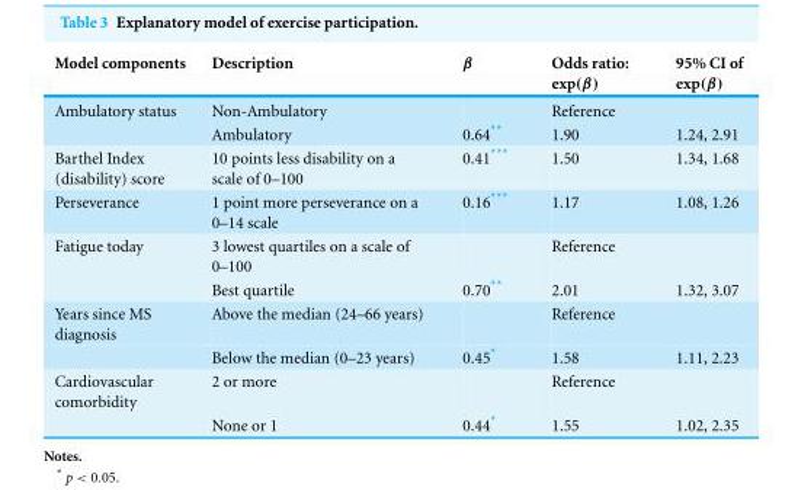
<table><thead><tr><td>Model components</td><td>Description</td><td>β</td><td>Odds ratio: exp(β)</td><td>95% CI of exp(β)</td></tr></thead><tbody><tr><td rowspan="2">Ambulatory status</td><td>Non-Ambulatory</td><td></td><td>Reference</td><td></td></tr><tr><td>Ambulatory</td><td>0.64**</td><td>1.90</td><td>1.24, 2.91</td></tr><tr><td>Barthel Index (disability) score</td><td>10 points less disability on a scale of 0–100</td><td>0.41***</td><td>1.50</td><td>1.34, 1.68</td></tr><tr><td>Perseverance</td><td>1 point more perseverance on a 0–14 scale</td><td>0.16***</td><td>1.17</td><td>1.08, 1.26</td></tr><tr><td rowspan="2">Fatigue today</td><td>3 lowest quartiles on a scale of 0–100</td><td></td><td>Reference</td><td></td></tr><tr><td>Best quartile</td><td>0.70**</td><td>2.01</td><td>1.32, 3.07</td></tr><tr><td rowspan="2">Years since MS diagnosis</td><td>Above the median (24–66 years)</td><td></td><td>Reference</td><td></td></tr><tr><td>Below the median (0–23 years)</td><td>0.45*</td><td>1.58</td><td>1.11, 2.23</td></tr><tr><td rowspan="2">Cardiovascular comorbidity</td><td>2 or more</td><td></td><td>Reference</td><td></td></tr><tr><td>None or 1</td><td>0.44*</td><td>1.55</td><td>1.02, 2.35</td></tr></tbody></table>